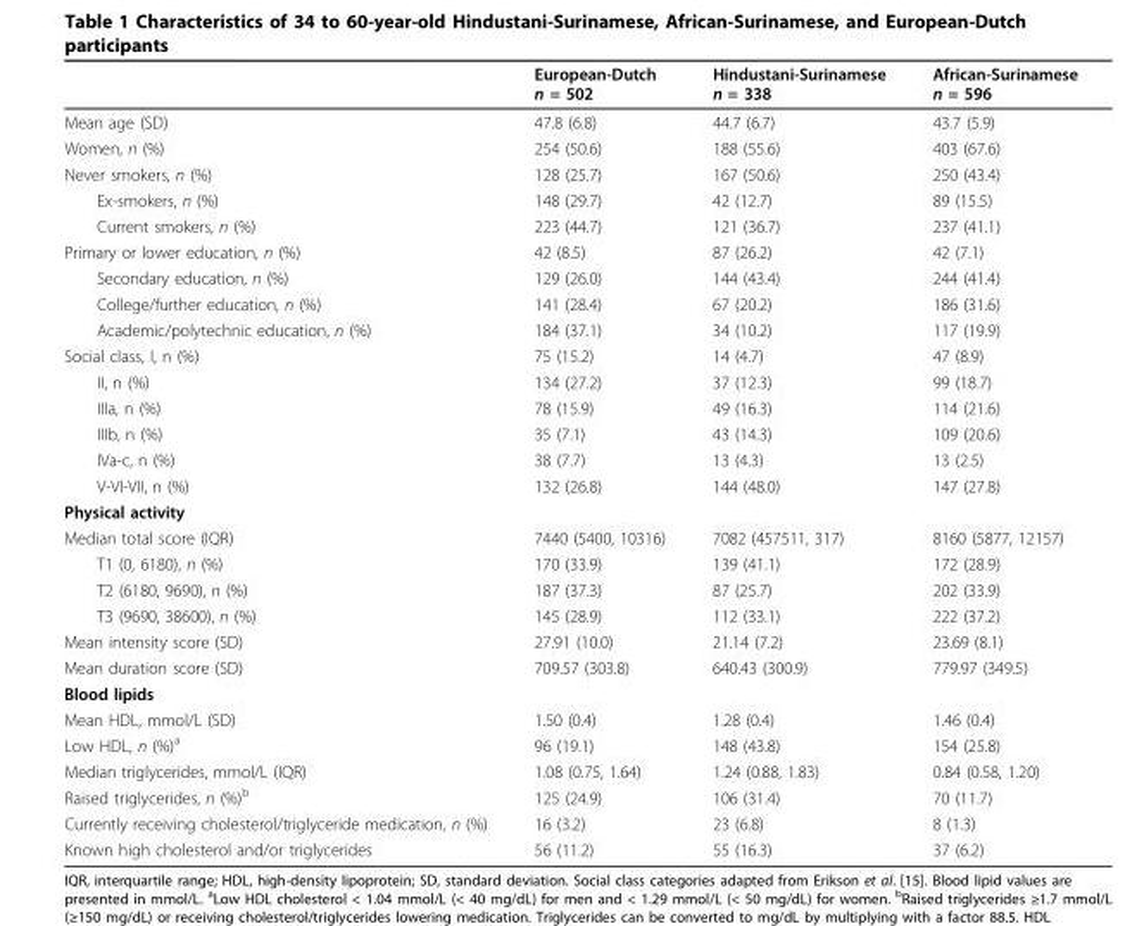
<table><thead><tr><td></td><td>European-Dutch n = 502</td><td>Hindustani-Surinamese n = 338</td><td>African-Surinamese n = 596</td></tr></thead><tbody><tr><td>Mean age (SD)</td><td>47.8 (6.8)</td><td>44.7 (6.7)</td><td>43.7 (5.9)</td></tr><tr><td>Women, n (%)</td><td>254 (50.6)</td><td>188 (55.6)</td><td>403 (67.6)</td></tr><tr><td>Never smokers, n (%)</td><td>128 (25.7)</td><td>167 (50.6)</td><td>250 (43.4)</td></tr><tr><td>Ex-smokers, n (%)</td><td>148 (29.7)</td><td>42 (12.7)</td><td>89 (15.5)</td></tr><tr><td>Current smokers, n (%)</td><td>223 (44.7)</td><td>121 (36.7)</td><td>237 (41.1)</td></tr><tr><td>Primary or lower education, n (%)</td><td>42 (8.5)</td><td>87 (26.2)</td><td>42 (7.1)</td></tr><tr><td>Secondary education, n (%)</td><td>129 (26.0)</td><td>144 (43.4)</td><td>244 (41.4)</td></tr><tr><td>College/further education, n (%)</td><td>141 (28.4)</td><td>67 (20.2)</td><td>186 (31.6)</td></tr><tr><td>Academic/polytechnic education, n (%)</td><td>184 (37.1)</td><td>34 (10.2)</td><td>117 (19.9)</td></tr><tr><td>Social class, I, n (%)</td><td>75 (15.2)</td><td>14 (4.7)</td><td>47 (8.9)</td></tr><tr><td>II, n (%)</td><td>134 (27.2)</td><td>37 (12.3)</td><td>99 (18.7)</td></tr><tr><td>IIIa, n (%)</td><td>78 (15.9)</td><td>49 (16.3)</td><td>114 (21.6)</td></tr><tr><td>IIIb, n (%)</td><td>35 (7.1)</td><td>43 (14.3)</td><td>109 (20.6)</td></tr><tr><td>IVa-c, n (%)</td><td>38 (7.7)</td><td>13 (4.3)</td><td>13 (2.5)</td></tr><tr><td>V-VI-VII, n (%)</td><td>132 (26.8)</td><td>144 (48.0)</td><td>147 (27.8)</td></tr><tr><td colspan="4">Physical activity</td></tr><tr><td>Median total score (IQR)</td><td>7440 (5400, 10316)</td><td>7082 (457511, 317)</td><td>8160 (5877, 12157)</td></tr><tr><td>T1 (0, 6180), n (%)</td><td>170 (33.9)</td><td>139 (41.1)</td><td>172 (28.9)</td></tr><tr><td>T2 (6180, 9690), n (%)</td><td>187 (37.3)</td><td>87 (25.7)</td><td>202 (33.9)</td></tr><tr><td>T3 (9690, 38600), n (%)</td><td>145 (28.9)</td><td>112 (33.1)</td><td>222 (37.2)</td></tr><tr><td>Mean intensity score (SD)</td><td>27.91 (10.0)</td><td>21.14 (7.2)</td><td>23.69 (8.1)</td></tr><tr><td>Mean duration score (SD)</td><td>709.57 (303.8)</td><td>640.43 (300.9)</td><td>779.97 (349.5)</td></tr><tr><td colspan="4">Blood lipids</td></tr><tr><td>Mean HDL, mmol/L (SD)</td><td>1.50 (0.4)</td><td>1.28 (0.4)</td><td>1.46 (0.4)</td></tr><tr><td>Low HDL, n (%)<sup>a</sup></td><td>96 (19.1)</td><td>148 (43.8)</td><td>154 (25.8)</td></tr><tr><td>Median triglycerides, mmol/L (IQR)</td><td>1.08 (0.75, 1.64)</td><td>1.24 (0.88, 1.83)</td><td>0.84 (0.58, 1.20)</td></tr><tr><td>Raised triglycerides, n (%)<sup>b</sup></td><td>125 (24.9)</td><td>106 (31.4)</td><td>70 (11.7)</td></tr><tr><td>Currently receiving cholesterol/triglyceride medication, n (%)</td><td>16 (3.2)</td><td>23 (6.8)</td><td>8 (1.3)</td></tr><tr><td>Known high cholesterol and/or triglycerides</td><td>56 (11.2)</td><td>55 (16.3)</td><td>37 (6.2)</td></tr></tbody></table>